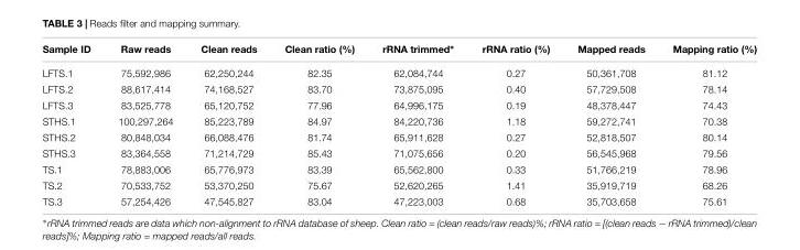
<table><thead><tr><td>Sample ID</td><td>Raw reads</td><td>Clean reads</td><td>Clean ratio (%)</td><td>rRNA trimmed∗</td><td>rRNA ratio (%)</td><td>Mapped reads</td><td>Mapping ratio (%)</td></tr></thead><tbody><tr><td>LFTS.1</td><td>75,592,986</td><td>62,250,244</td><td>82.35</td><td>62,084,744</td><td>0.27</td><td>50,361,708</td><td>81.12</td></tr><tr><td>LFTS.2</td><td>88,617,414</td><td>74,168,527</td><td>83.70</td><td>73,875,095</td><td>0.40</td><td>57,729,508</td><td>78.14</td></tr><tr><td>LFTS.3</td><td>83,525,778</td><td>65,120,752</td><td>77.96</td><td>64,996,175</td><td>0.19</td><td>48,378,447</td><td>74.43</td></tr><tr><td>STHS.1</td><td>100,297,264</td><td>85,223,789</td><td>84.97</td><td>84,220,736</td><td>1.18</td><td>59,272,741</td><td>70.38</td></tr><tr><td>STHS.2</td><td>80,848,034</td><td>66,088,476</td><td>81.74</td><td>65,911,628</td><td>0.27</td><td>52,818,507</td><td>80.14</td></tr><tr><td>STHS.3</td><td>83,364,558</td><td>71,214,729</td><td>85.43</td><td>71,075,656</td><td>0.20</td><td>56,545,968</td><td>79.56</td></tr><tr><td>TS.1</td><td>78,883,006</td><td>65,776,973</td><td>83.39</td><td>65,562,800</td><td>0.33</td><td>51,766,219</td><td>78.96</td></tr><tr><td>TS.2</td><td>70,533,752</td><td>53,370,250</td><td>75.67</td><td>52,620,265</td><td>1.41</td><td>35,919,719</td><td>68.26</td></tr><tr><td>TS.3</td><td>57,254,426</td><td>47,545,827</td><td>83.04</td><td>47,223,003</td><td>0.68</td><td>35,703,658</td><td>75.61</td></tr></tbody></table>